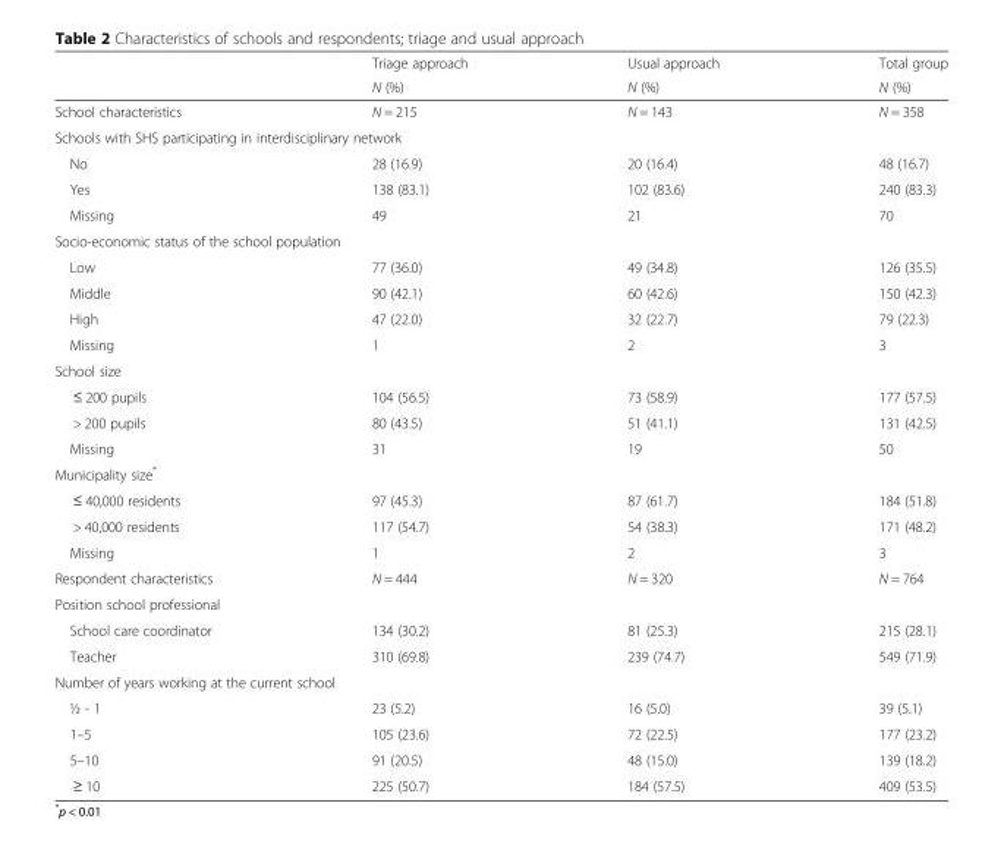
<table><thead><tr><td rowspan="2"></td><td rowspan="2">Triage approach N (%)</td><td rowspan="2">Usual approach N (%)</td><td rowspan="2">Total group N (%)</td></tr><tr></tr></thead><tbody><tr><td>School characteristics</td><td>N = 215</td><td>N = 143</td><td>N = 358</td></tr><tr><td colspan="4">Schools with SHS participating in interdisciplinary network</td></tr><tr><td>No</td><td>28 (16.9)</td><td>20 (16.4)</td><td>48 (16.7)</td></tr><tr><td>Yes</td><td>138 (83.1)</td><td>102 (83.6)</td><td>240 (83.3)</td></tr><tr><td>Missing</td><td>49</td><td>21</td><td>70</td></tr><tr><td colspan="4">Socio-economic status of the school population</td></tr><tr><td>Low</td><td>77 (36.0)</td><td>49 (34.8)</td><td>126 (35.5)</td></tr><tr><td>Middle</td><td>90 (42.1)</td><td>60 (42.6)</td><td>150 (42.3)</td></tr><tr><td>High</td><td>47 (22.0)</td><td>32 (22.7)</td><td>79 (22.3)</td></tr><tr><td>Missing</td><td>1</td><td>2</td><td>3</td></tr><tr><td colspan="4">School size</td></tr><tr><td>≤ 200 pupils</td><td>104 (56.5)</td><td>73 (58.9)</td><td>177 (57.5)</td></tr><tr><td>&gt; 200 pupils</td><td>80 (43.5)</td><td>51 (41.1)</td><td>131 (42.5)</td></tr><tr><td>Missing</td><td>31</td><td>19</td><td>50</td></tr><tr><td colspan="4">Municipality size*</td></tr><tr><td>≤ 40,000 residents</td><td>97 (45.3)</td><td>87 (61.7)</td><td>184 (51.8)</td></tr><tr><td>&gt; 40,000 residents</td><td>117 (54.7)</td><td>54 (38.3)</td><td>171 (48.2)</td></tr><tr><td>Missing</td><td>1</td><td>2</td><td>3</td></tr><tr><td>Respondent characteristics</td><td>N = 444</td><td>N = 320</td><td>N = 764</td></tr><tr><td colspan="4">Position school professional</td></tr><tr><td>School care coordinator</td><td>134 (30.2)</td><td>81 (25.3)</td><td>215 (28.1)</td></tr><tr><td>Teacher</td><td>310 (69.8)</td><td>239 (74.7)</td><td>549 (71.9)</td></tr><tr><td colspan="4">Number of years working at the current school</td></tr><tr><td>½ - 1</td><td>23 (5.2)</td><td>16 (5.0)</td><td>39 (5.1)</td></tr><tr><td>1–5</td><td>105 (23.6)</td><td>72 (22.5)</td><td>177 (23.2)</td></tr><tr><td>5–10</td><td>91 (20.5)</td><td>48 (15.0)</td><td>139 (18.2)</td></tr><tr><td>≥ 10</td><td>225 (50.7)</td><td>184 (57.5)</td><td>409 (53.5)</td></tr></tbody></table>